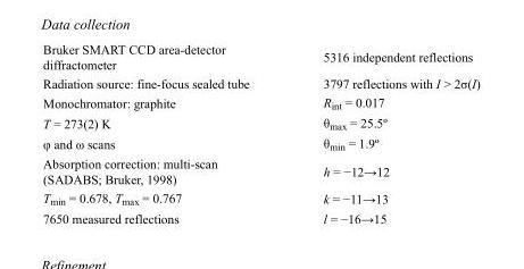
<table><tbody><tr><td>Bruker SMART CCD area-detector diffractometer</td><td>5316 independent reflections</td></tr><tr><td>Radiation source: fine-focus sealed tube</td><td>3797 reflections with I &gt; 2σ(I)</td></tr><tr><td>Monochromator: graphite</td><td>R<sub>int</sub> = 0.017</td></tr><tr><td>T = 273(2) K</td><td>θ<sub>max</sub> = 25.5º</td></tr><tr><td>φ and ω scans</td><td>θ<sub>min</sub> = 1.9º</td></tr><tr><td>Absorption correction: multi-scan (SADABS; Bruker, 1998)</td><td>h = −12→12</td></tr><tr><td>T<sub>min</sub> = 0.678, T<sub>max</sub> = 0.767</td><td>k = −11→13</td></tr><tr><td>7650 measured reflections</td><td>l = −16→15</td></tr></tbody></table>